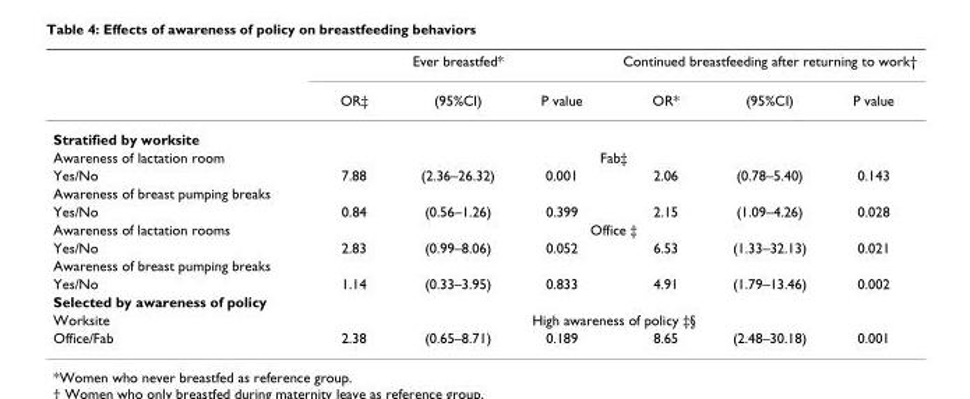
<table><thead><tr><td rowspan="2"></td><td colspan="3">Ever breastfed*</td><td colspan="3">Continued breastfeeding after returning to work†</td></tr><tr><td>OR‡</td><td>(95%CI)</td><td>P value</td><td>OR*</td><td>(95%CI)</td><td>P value</td></tr></thead><tbody><tr><td colspan="7">Stratified by worksite</td></tr><tr><td>Awareness of lactation room</td><td colspan="6">Fab‡</td></tr><tr><td>Yes/No</td><td>7.88</td><td>(2.36–26.32)</td><td>0.001</td><td>2.06</td><td>(0.78–5.40)</td><td>0.143</td></tr><tr><td colspan="7">Awareness of breast pumping breaks</td></tr><tr><td>Yes/No</td><td>0.84</td><td>(0.56–1.26)</td><td>0.399</td><td>2.15</td><td>(1.09–4.26)</td><td>0.028</td></tr><tr><td>Awareness of lactation rooms</td><td colspan="6">Office ‡</td></tr><tr><td>Yes/No</td><td>2.83</td><td>(0.99–8.06)</td><td>0.052</td><td>6.53</td><td>(1.33–32.13)</td><td>0.021</td></tr><tr><td colspan="7">Awareness of breast pumping breaks</td></tr><tr><td>Yes/No</td><td>1.14</td><td>(0.33–3.95)</td><td>0.833</td><td>4.91</td><td>(1.79–13.46)</td><td>0.002</td></tr><tr><td colspan="7">Selected by awareness of policy</td></tr><tr><td>Worksite</td><td colspan="6">High awareness of policy ‡§</td></tr><tr><td>Office/Fab</td><td>2.38</td><td>(0.65–8.71)</td><td>0.189</td><td>8.65</td><td>(2.48–30.18)</td><td>0.001</td></tr></tbody></table>